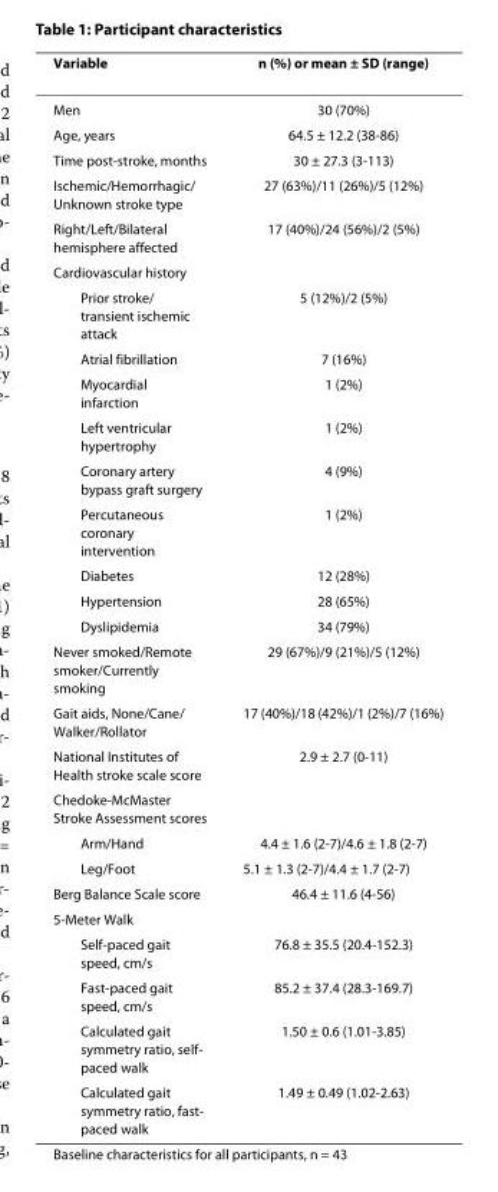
<table><thead><tr><td>Variable</td><td>n (%) or mean ± SD (range)</td></tr></thead><tbody><tr><td>Men</td><td>30 (70%)</td></tr><tr><td>Age, years</td><td>64.5 ± 12.2 (38-86)</td></tr><tr><td>Time post-stroke, months</td><td>30 ± 27.3 (3-113)</td></tr><tr><td>Ischemic/Hemorrhagic/ Unknown stroke type</td><td>27 (63%)/11 (26%)/5 (12%)</td></tr><tr><td>Right/Left/Bilateral hemisphere affected</td><td>17 (40%)/24 (56%)/2 (5%)</td></tr><tr><td colspan="2">Cardiovascular history</td></tr><tr><td>Prior stroke/ transient ischemic attack</td><td>5 (12%)/2 (5%)</td></tr><tr><td>Atrial fibrillation</td><td>7 (16%)</td></tr><tr><td>Myocardial infarction</td><td>1 (2%)</td></tr><tr><td>Left ventricular hypertrophy</td><td>1 (2%)</td></tr><tr><td>Coronary artery bypass graft surgery</td><td>4 (9%)</td></tr><tr><td>Percutaneous coronary intervention</td><td>1 (2%)</td></tr><tr><td>Diabetes</td><td>12 (28%)</td></tr><tr><td>Hypertension</td><td>28 (65%)</td></tr><tr><td>Dyslipidemia</td><td>34 (79%)</td></tr><tr><td>Never smoked/Remote smoker/Currently smoking</td><td>29 (67%)/9 (21%)/5 (12%)</td></tr><tr><td>Gait aids, None/Cane/ Walker/Rollator</td><td>17 (40%)/18 (42%)/1 (2%)/7 (16%)</td></tr><tr><td>National Institutes of Health stroke scale score</td><td>2.9 ± 2.7 (0-11)</td></tr><tr><td colspan="2">Chedoke-McMaster Stroke Assessment scores</td></tr><tr><td>Arm/Hand</td><td>4.4 ± 1.6 (2-7)/4.6 ± 1.8 (2-7)</td></tr><tr><td>Leg/Foot</td><td>5.1 ± 1.3 (2-7)/4.4 ± 1.7 (2-7)</td></tr><tr><td>Berg Balance Scale score</td><td>46.4 ± 11.6 (4-56)</td></tr><tr><td colspan="2">5-Meter Walk</td></tr><tr><td>Self-paced gait speed, cm/s</td><td>76.8 ± 35.5 (20.4-152.3)</td></tr><tr><td>Fast-paced gait speed, cm/s</td><td>85.2 ± 37.4 (28.3-169.7)</td></tr><tr><td>Calculated gait symmetry ratio, self- paced walk</td><td>1.50 ± 0.6 (1.01-3.85)</td></tr><tr><td>Calculated gait symmetry ratio, fast- paced walk</td><td>1.49 ± 0.49 (1.02-2.63)</td></tr></tbody></table>